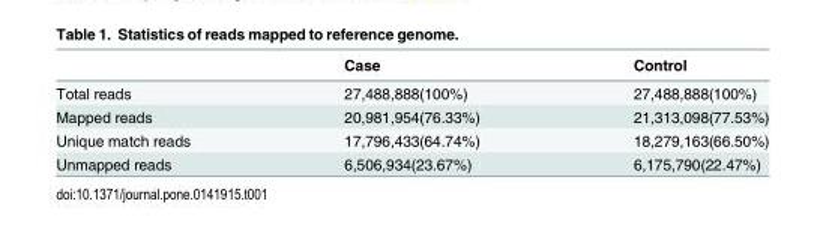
<table><thead><tr><td></td><td>Case</td><td>Control</td></tr></thead><tbody><tr><td>Total reads</td><td>27,488,888(100%)</td><td>27,488,888(100%)</td></tr><tr><td>Mapped reads</td><td>20,981,954(76.33%)</td><td>21,313,098(77.53%)</td></tr><tr><td>Unique match reads</td><td>17,796,433(64.74%)</td><td>18,279,163(66.50%)</td></tr><tr><td>Unmapped reads</td><td>6,506,934(23.67%)</td><td>6,175,790(22.47%)</td></tr></tbody></table>